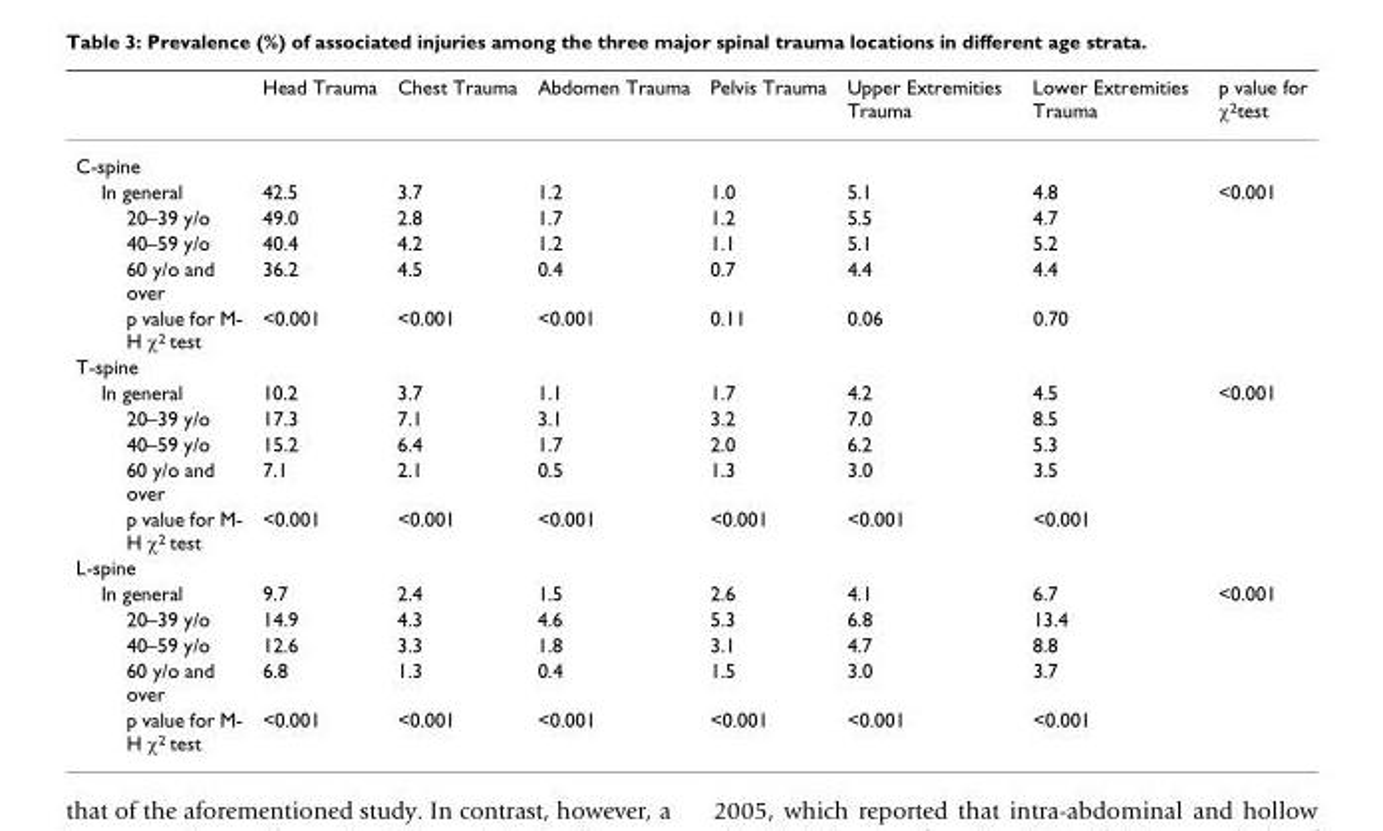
<table><thead><tr><td></td><td>Head Trauma</td><td>Chest Trauma</td><td>Abdomen Trauma</td><td>Pelvis Trauma</td><td>Upper Extremities Trauma</td><td>Lower Extremities Trauma</td><td>p value for χ<sup>2</sup>test</td></tr></thead><tbody><tr><td colspan="8">C-spine</td></tr><tr><td>In general</td><td>42.5</td><td>3.7</td><td>1.2</td><td>1.0</td><td>5.1</td><td>4.8</td><td>&lt;0.001</td></tr><tr><td>20–39 y/o</td><td>49.0</td><td>2.8</td><td>1.7</td><td>1.2</td><td>5.5</td><td>4.7</td><td></td></tr><tr><td>40–59 y/o</td><td>40.4</td><td>4.2</td><td>1.2</td><td>1.1</td><td>5.1</td><td>5.2</td><td></td></tr><tr><td>60 y/o and over</td><td>36.2</td><td>4.5</td><td>0.4</td><td>0.7</td><td>4.4</td><td>4.4</td><td></td></tr><tr><td>p value for M- H χ<sup>2</sup> test</td><td>&lt;0.001</td><td>&lt;0.001</td><td>&lt;0.001</td><td>0.11</td><td>0.06</td><td>0.70</td><td></td></tr><tr><td colspan="8">T-spine</td></tr><tr><td>In general</td><td>10.2</td><td>3.7</td><td>1.1</td><td>1.7</td><td>4.2</td><td>4.5</td><td>&lt;0.001</td></tr><tr><td>20–39 y/o</td><td>17.3</td><td>7.1</td><td>3.1</td><td>3.2</td><td>7.0</td><td>8.5</td><td></td></tr><tr><td>40–59 y/o</td><td>15.2</td><td>6.4</td><td>1.7</td><td>2.0</td><td>6.2</td><td>5.3</td><td></td></tr><tr><td>60 y/o and over</td><td>7.1</td><td>2.1</td><td>0.5</td><td>1.3</td><td>3.0</td><td>3.5</td><td></td></tr><tr><td>p value for M- H χ<sup>2</sup> test</td><td>&lt;0.001</td><td>&lt;0.001</td><td>&lt;0.001</td><td>&lt;0.001</td><td>&lt;0.001</td><td>&lt;0.001</td><td></td></tr><tr><td colspan="8">L-spine</td></tr><tr><td>In general</td><td>9.7</td><td>2.4</td><td>1.5</td><td>2.6</td><td>4.1</td><td>6.7</td><td>&lt;0.001</td></tr><tr><td>20–39 y/o</td><td>14.9</td><td>4.3</td><td>4.6</td><td>5.3</td><td>6.8</td><td>13.4</td><td></td></tr><tr><td>40–59 y/o</td><td>12.6</td><td>3.3</td><td>1.8</td><td>3.1</td><td>4.7</td><td>8.8</td><td></td></tr><tr><td>60 y/o and over</td><td>6.8</td><td>1.3</td><td>0.4</td><td>1.5</td><td>3.0</td><td>3.7</td><td></td></tr><tr><td>p value for M- H χ<sup>2</sup> test</td><td>&lt;0.001</td><td>&lt;0.001</td><td>&lt;0.001</td><td>&lt;0.001</td><td>&lt;0.001</td><td>&lt;0.001</td><td></td></tr></tbody></table>